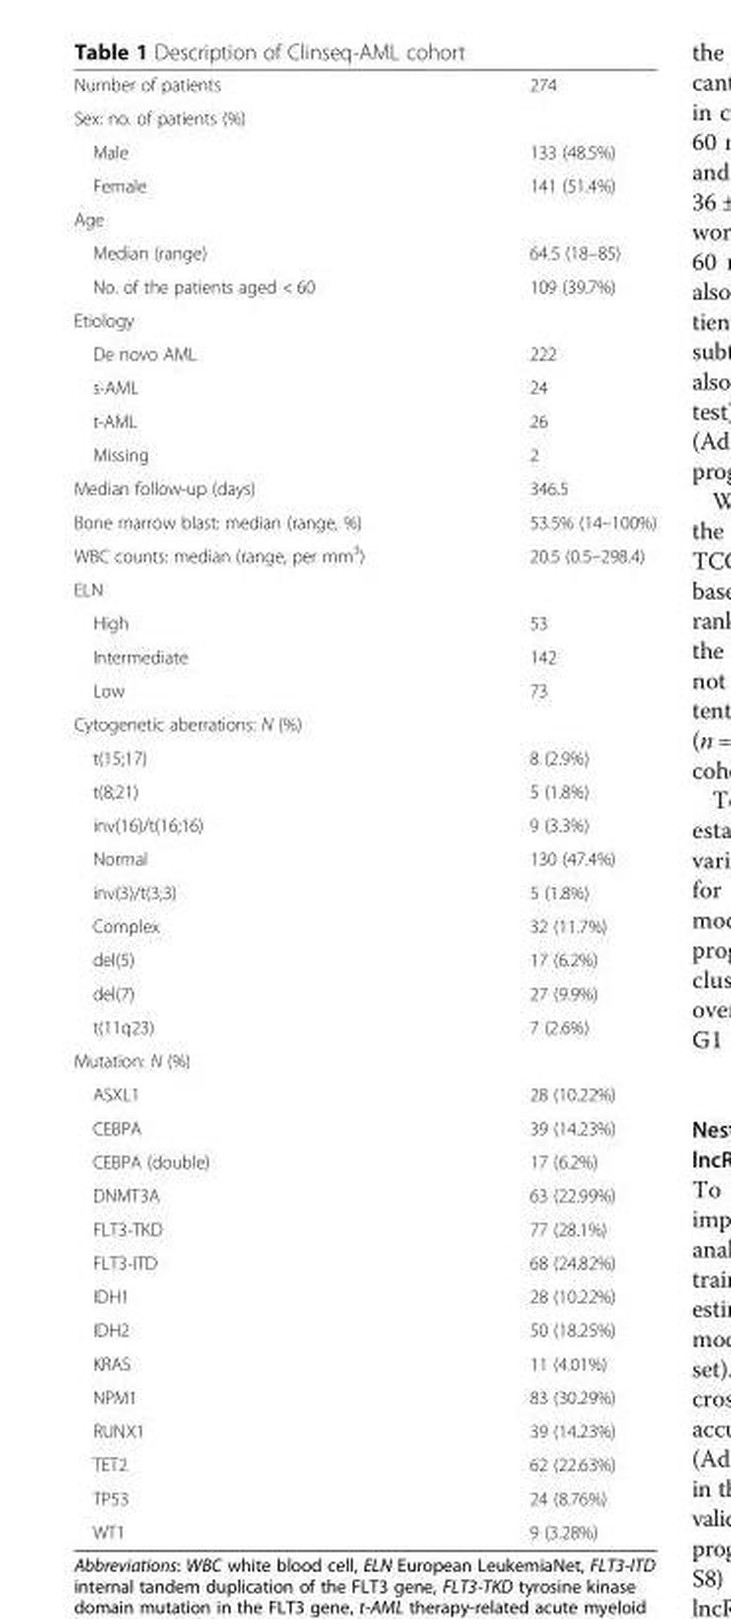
<table><tbody><tr><td>Number of patients</td><td>274</td></tr><tr><td colspan="2">Sex: no. of patients (%)</td></tr><tr><td>Male</td><td>133 (48.5%)</td></tr><tr><td>Female</td><td>141 (51.4%)</td></tr><tr><td colspan="2">Age</td></tr><tr><td>Median (range)</td><td>64.5 (18–85)</td></tr><tr><td>No. of the patients aged &lt; 60</td><td>109 (39.7%)</td></tr><tr><td colspan="2">Etiology</td></tr><tr><td>De novo AML</td><td>222</td></tr><tr><td>s-AML</td><td>24</td></tr><tr><td>t-AML</td><td>26</td></tr><tr><td>Missing</td><td>2</td></tr><tr><td>Median follow-up (days)</td><td>346.5</td></tr><tr><td>Bone marrow blast: median (range, %)</td><td>53.5% (14–100%)</td></tr><tr><td>WBC counts: median (range, per mm<sup>3</sup>)</td><td>20.5 (0.5–298.4)</td></tr><tr><td colspan="2">ELN</td></tr><tr><td>High</td><td>53</td></tr><tr><td>Intermediate</td><td>142</td></tr><tr><td>Low</td><td>73</td></tr><tr><td colspan="2">Cytogenetic aberrations: N (%)</td></tr><tr><td>t(15;17)</td><td>8 (2.9%)</td></tr><tr><td>t(8;21)</td><td>5 (1.8%)</td></tr><tr><td>inv(16)/t(16;16)</td><td>9 (3.3%)</td></tr><tr><td>Normal</td><td>130 (47.4%)</td></tr><tr><td>inv(3)/t(3;3)</td><td>5 (1.8%)</td></tr><tr><td>Complex</td><td>32 (11.7%)</td></tr><tr><td>del(5)</td><td>17 (6.2%)</td></tr><tr><td>del(7)</td><td>27 (9.9%)</td></tr><tr><td>t(11q23)</td><td>7 (2.6%)</td></tr><tr><td colspan="2">Mutation: N (%)</td></tr><tr><td>ASXL1</td><td>28 (10.22%)</td></tr><tr><td>CEBPA</td><td>39 (14.23%)</td></tr><tr><td>CEBPA (double)</td><td>17 (6.2%)</td></tr><tr><td>DNMT3A</td><td>63 (22.99%)</td></tr><tr><td>FLT3-TKD</td><td>77 (28.1%)</td></tr><tr><td>FLT3-ITD</td><td>68 (24.82%)</td></tr><tr><td>IDH1</td><td>28 (10.22%)</td></tr><tr><td>IDH2</td><td>50 (18.25%)</td></tr><tr><td>KRAS</td><td>11 (4.01%)</td></tr><tr><td>NPM1</td><td>83 (30.29%)</td></tr><tr><td>RUNX1</td><td>39 (14.23%)</td></tr><tr><td>TET2</td><td>62 (22.63%)</td></tr><tr><td>TP53</td><td>24 (8.76%)</td></tr><tr><td>WT1</td><td>9 (3.28%)</td></tr></tbody></table>